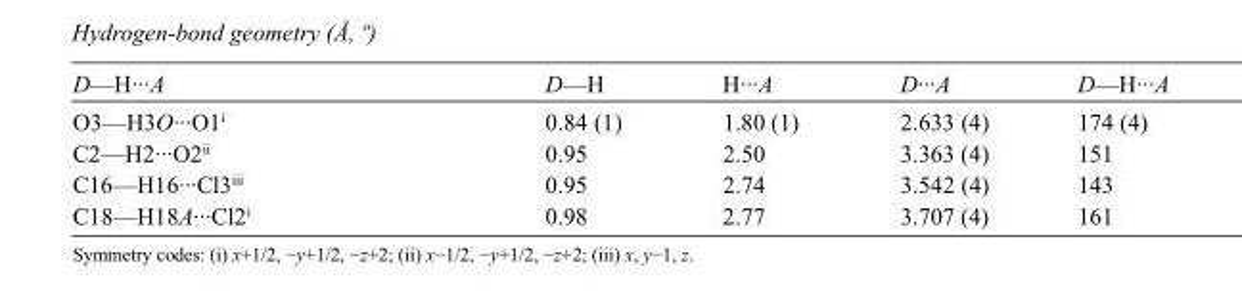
<table><tbody><tr><td>D—H···A</td><td>D—H</td><td>H···A</td><td>D···A</td><td>D—H···A</td></tr><tr><td>O3—H3O···O1<sup>i</sup></td><td>0.84 (1)</td><td>1.80 (1)</td><td>2.633 (4)</td><td>174 (4)</td></tr><tr><td>C2—H2···O2<sup>ii</sup></td><td>0.95</td><td>2.50</td><td>3.363 (4)</td><td>151</td></tr><tr><td>C16—H16···Cl3<sup>iii</sup></td><td>0.95</td><td>2.74</td><td>3.542 (4)</td><td>143</td></tr><tr><td>C18—H18A···Cl2<sup>i</sup></td><td>0.98</td><td>2.77</td><td>3.707 (4)</td><td>161</td></tr></tbody></table>